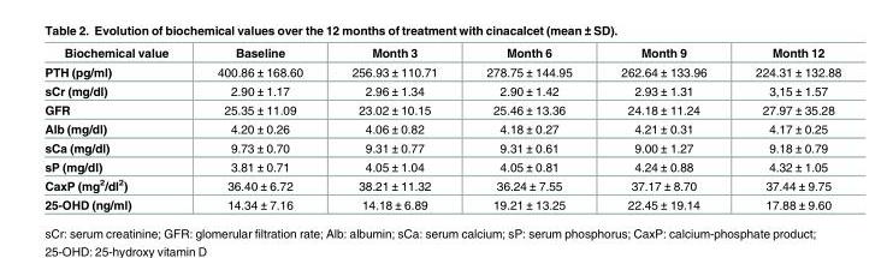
<table><thead><tr><td>Biochemical value</td><td>Baseline</td><td>Month 3</td><td>Month 6</td><td>Month 9</td><td>Month 12</td></tr></thead><tbody><tr><td>PTH (pg/ml)</td><td>400.86 ± 168.60</td><td>256.93 ± 110.71</td><td>278.75 ± 144.95</td><td>262.64 ± 133.96</td><td>224.31 ± 132.88</td></tr><tr><td>sCr (mg/dl)</td><td>2.90 ± 1.17</td><td>2.96 ± 1.34</td><td>2.90 ± 1.42</td><td>2.93 ± 1.31</td><td>3,15 ± 1.57</td></tr><tr><td>GFR</td><td>25.35 ± 11.09</td><td>23.02 ± 10.15</td><td>25.46 ± 13.36</td><td>24.18 ± 11.24</td><td>27.97 ± 35.28</td></tr><tr><td>Alb (mg/dl)</td><td>4.20 ± 0.26</td><td>4.06 ± 0.82</td><td>4.18 ± 0.27</td><td>4.21 ± 0.31</td><td>4.17 ± 0.25</td></tr><tr><td>sCa (mg/dl)</td><td>9.73 ± 0.70</td><td>9.31 ± 0.77</td><td>9.31 ± 0.61</td><td>9.00 ± 1.27</td><td>9.18 ± 0.79</td></tr><tr><td>sP (mg/dl)</td><td>3.81 ± 0.71</td><td>4.05 ± 1.04</td><td>4.05 ± 0.81</td><td>4.24 ± 0.88</td><td>4.32 ± 1.05</td></tr><tr><td>CaxP (mg<sup>2</sup>/dl<sup>2</sup>)</td><td>36.40 ± 6.72</td><td>38.21 ± 11.32</td><td>36.24 ± 7.55</td><td>37.17 ± 8.70</td><td>37.44 ± 9.75</td></tr><tr><td>25-OHD (ng/ml)</td><td>14.34 ± 7.16</td><td>14.18 ± 6.89</td><td>19.21 ± 13.25</td><td>22.45 ± 19.14</td><td>17.88 ± 9.60</td></tr></tbody></table>